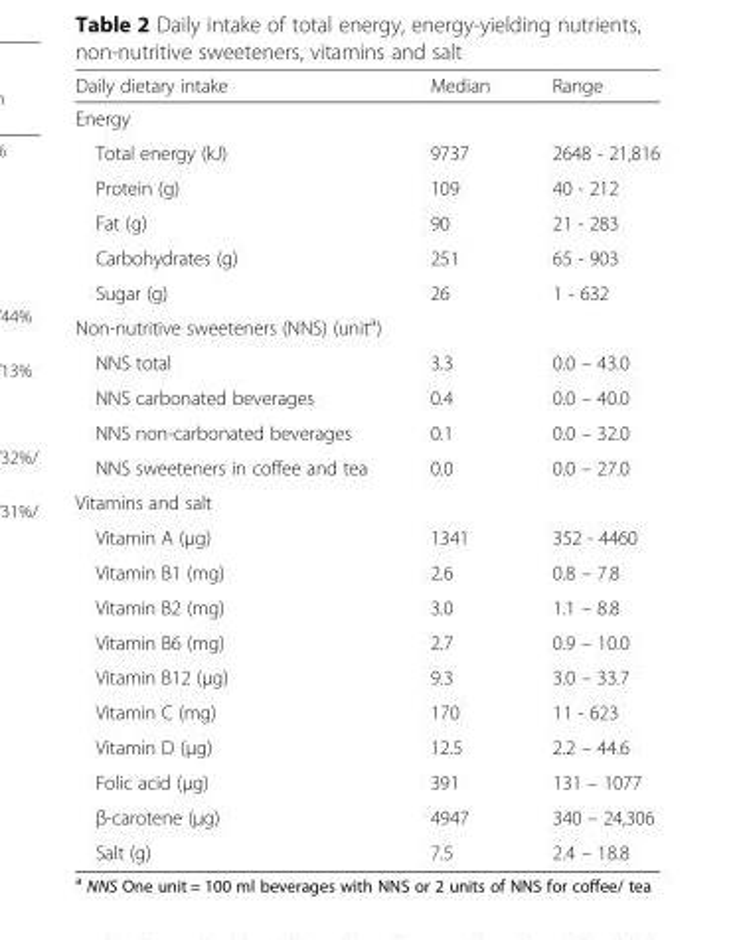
<table><thead><tr><td>Daily dietary intake</td><td>Median</td><td>Range</td></tr></thead><tbody><tr><td colspan="3">Energy</td></tr><tr><td>Total energy (kJ)</td><td>9737</td><td>2648 - 21,816</td></tr><tr><td>Protein (g)</td><td>109</td><td>40 - 212</td></tr><tr><td>Fat (g)</td><td>90</td><td>21 - 283</td></tr><tr><td>Carbohydrates (g)</td><td>251</td><td>65 - 903</td></tr><tr><td>Sugar (g)</td><td>26</td><td>1 - 632</td></tr><tr><td colspan="3">Non-nutritive sweeteners (NNS) (unit<sup>a</sup>)</td></tr><tr><td>NNS total</td><td>3.3</td><td>0.0 – 43.0</td></tr><tr><td>NNS carbonated beverages</td><td>0.4</td><td>0.0 – 40.0</td></tr><tr><td>NNS non-carbonated beverages</td><td>0.1</td><td>0.0 – 32.0</td></tr><tr><td>NNS sweeteners in coffee and tea</td><td>0.0</td><td>0.0 – 27.0</td></tr><tr><td colspan="3">Vitamins and salt</td></tr><tr><td>Vitamin A (μg)</td><td>1341</td><td>352 - 4460</td></tr><tr><td>Vitamin B1 (mg)</td><td>2.6</td><td>0.8 – 7.8</td></tr><tr><td>Vitamin B2 (mg)</td><td>3.0</td><td>1.1 – 8.8</td></tr><tr><td>Vitamin B6 (mg)</td><td>2.7</td><td>0.9 – 10.0</td></tr><tr><td>Vitamin B12 (μg)</td><td>9.3</td><td>3.0 – 33.7</td></tr><tr><td>Vitamin C (mg)</td><td>170</td><td>11 - 623</td></tr><tr><td>Vitamin D (μg)</td><td>12.5</td><td>2.2 – 44.6</td></tr><tr><td>Folic acid (μg)</td><td>391</td><td>131 – 1077</td></tr><tr><td>β-carotene (μg)</td><td>4947</td><td>340 – 24,306</td></tr><tr><td>Salt (g)</td><td>7.5</td><td>2.4 – 18.8</td></tr></tbody></table>